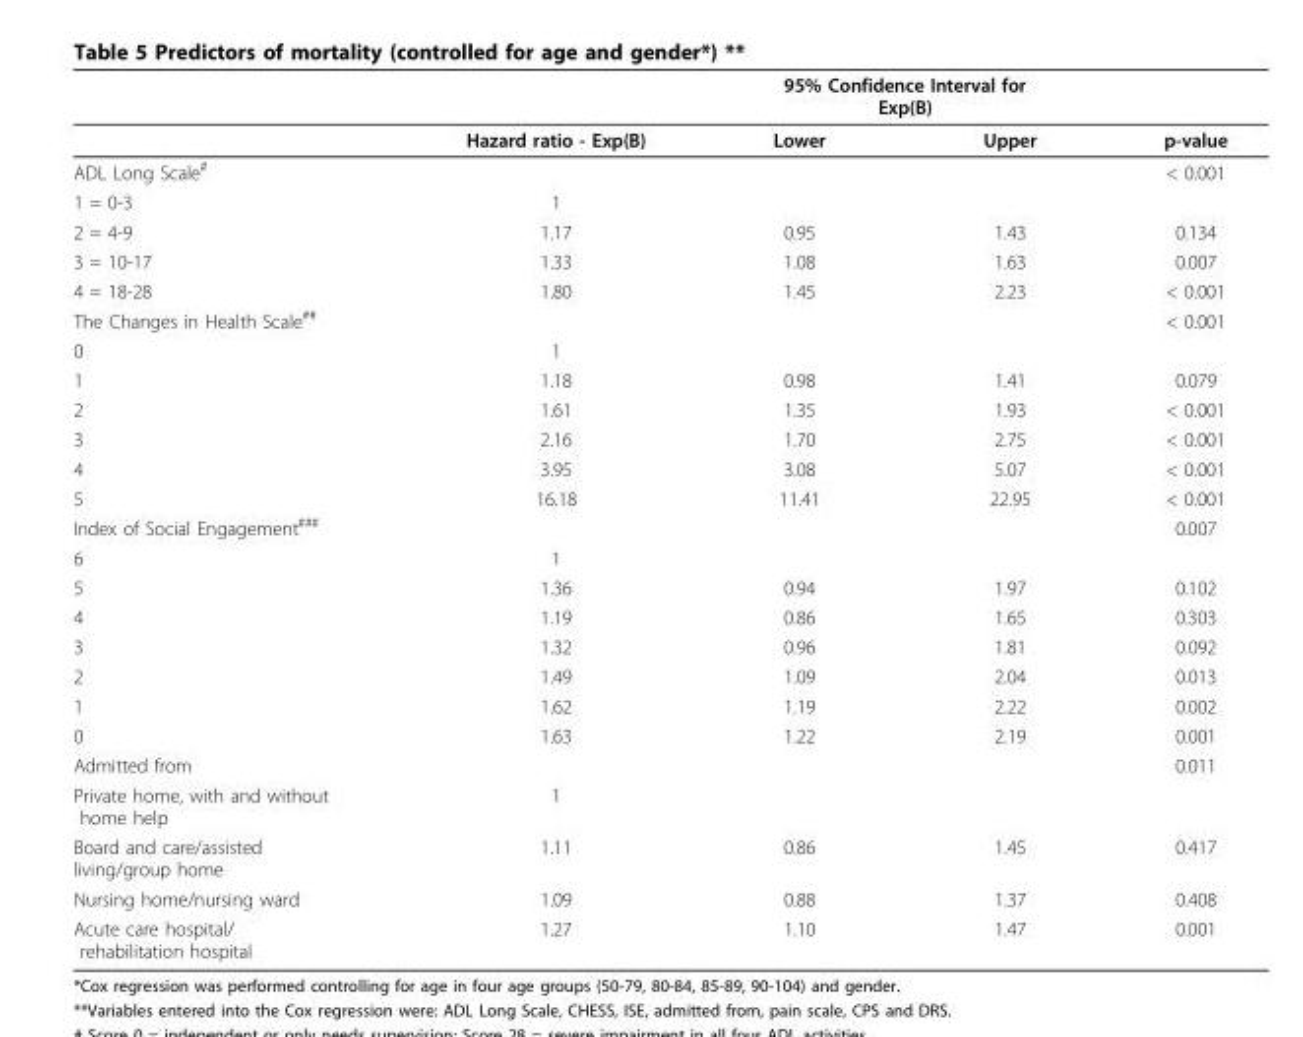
<table><thead><tr><td rowspan="2"></td><td rowspan="2">Hazard ratio - Exp(B)</td><td colspan="2">95% Confidence Interval for Exp(B)</td><td rowspan="2">p-value</td></tr><tr><td>Lower</td><td>Upper</td></tr></thead><tbody><tr><td>ADL Long Scale<sup>#</sup></td><td></td><td></td><td></td><td>&lt; 0.001</td></tr><tr><td>1 = 0-3</td><td>1</td><td></td><td></td><td></td></tr><tr><td>2 = 4-9</td><td>1.17</td><td>0.95</td><td>1.43</td><td>0.134</td></tr><tr><td>3 = 10-17</td><td>1.33</td><td>1.08</td><td>1.63</td><td>0.007</td></tr><tr><td>4 = 18-28</td><td>1.80</td><td>1.45</td><td>2.23</td><td>&lt; 0.001</td></tr><tr><td>The Changes in Health Scale<sup>##</sup></td><td></td><td></td><td></td><td>&lt; 0.001</td></tr><tr><td>0</td><td>1</td><td></td><td></td><td></td></tr><tr><td>1</td><td>1.18</td><td>0.98</td><td>1.41</td><td>0.079</td></tr><tr><td>2</td><td>1.61</td><td>1.35</td><td>1.93</td><td>&lt; 0.001</td></tr><tr><td>3</td><td>2.16</td><td>1.70</td><td>2.75</td><td>&lt; 0.001</td></tr><tr><td>4</td><td>3.95</td><td>3.08</td><td>5.07</td><td>&lt; 0.001</td></tr><tr><td>5</td><td>16.18</td><td>11.41</td><td>22.95</td><td>&lt; 0.001</td></tr><tr><td>Index of Social Engagement<sup>###</sup></td><td></td><td></td><td></td><td>0.007</td></tr><tr><td>6</td><td>1</td><td></td><td></td><td></td></tr><tr><td>5</td><td>1.36</td><td>0.94</td><td>1.97</td><td>0.102</td></tr><tr><td>4</td><td>1.19</td><td>0.86</td><td>1.65</td><td>0.303</td></tr><tr><td>3</td><td>1.32</td><td>0.96</td><td>1.81</td><td>0.092</td></tr><tr><td>2</td><td>1.49</td><td>1.09</td><td>2.04</td><td>0.013</td></tr><tr><td>1</td><td>1.62</td><td>1.19</td><td>2.22</td><td>0.002</td></tr><tr><td>0</td><td>1.63</td><td>1.22</td><td>2.19</td><td>0.001</td></tr><tr><td>Admitted from</td><td></td><td></td><td></td><td>0.011</td></tr><tr><td>Private home, with and without home help</td><td>1</td><td></td><td></td><td></td></tr><tr><td>Board and care/assisted living/group home</td><td>1.11</td><td>0.86</td><td>1.45</td><td>0.417</td></tr><tr><td>Nursing home/nursing ward</td><td>1.09</td><td>0.88</td><td>1.37</td><td>0.408</td></tr><tr><td>Acute care hospital/ rehabilitation hospital</td><td>1.27</td><td>1.10</td><td>1.47</td><td>0.001</td></tr></tbody></table>